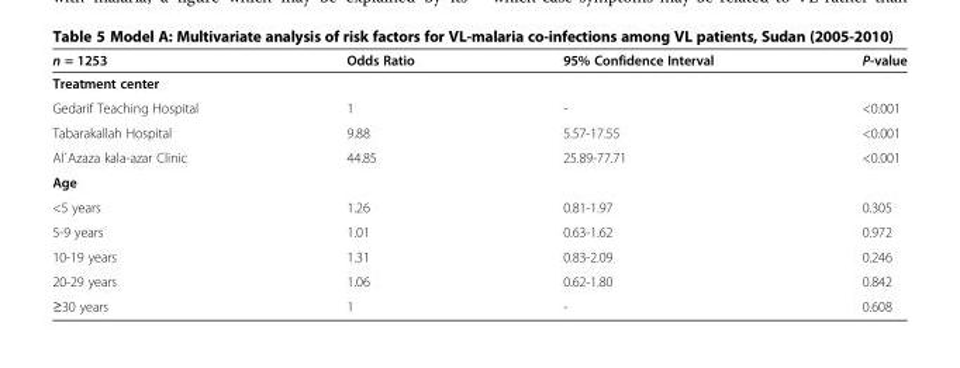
<table><thead><tr><td>n = 1253</td><td>Odds Ratio</td><td>95% Confidence Interval</td><td>P-value</td></tr></thead><tbody><tr><td colspan="4">Treatment center</td></tr><tr><td>Gedarif Teaching Hospital</td><td>1</td><td>-</td><td>&lt;0.001</td></tr><tr><td>Tabarakallah Hospital</td><td>9.88</td><td>5.57-17.55</td><td>&lt;0.001</td></tr><tr><td>Al`Azaza kala-azar Clinic</td><td>44.85</td><td>25.89-77.71</td><td>&lt;0.001</td></tr><tr><td colspan="4">Age</td></tr><tr><td>&lt;5 years</td><td>1.26</td><td>0.81-1.97</td><td>0.305</td></tr><tr><td>5-9 years</td><td>1.01</td><td>0.63-1.62</td><td>0.972</td></tr><tr><td>10-19 years</td><td>1.31</td><td>0.83-2.09</td><td>0.246</td></tr><tr><td>20-29 years</td><td>1.06</td><td>0.62-1.80</td><td>0.842</td></tr><tr><td>≥30 years</td><td>1</td><td>-</td><td>0.608</td></tr></tbody></table>